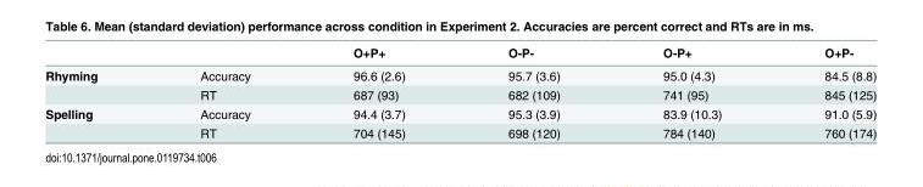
<table><thead><tr><td></td><td></td><td>O+P+</td><td>O-P-</td><td>O-P+</td><td>O+P-</td></tr></thead><tbody><tr><td rowspan="2">Rhyming</td><td>Accuracy</td><td>96.6 (2.6)</td><td>95.7 (3.6)</td><td>95.0 (4.3)</td><td>84.5 (8.8)</td></tr><tr><td>RT</td><td>687 (93)</td><td>682 (109)</td><td>741 (95)</td><td>845 (125)</td></tr><tr><td rowspan="2">Spelling</td><td>Accuracy</td><td>94.4 (3.7)</td><td>95.3 (3.9)</td><td>83.9 (10.3)</td><td>91.0 (5.9)</td></tr><tr><td>RT</td><td>704 (145)</td><td>698 (120)</td><td>784 (140)</td><td>760 (174)</td></tr></tbody></table>